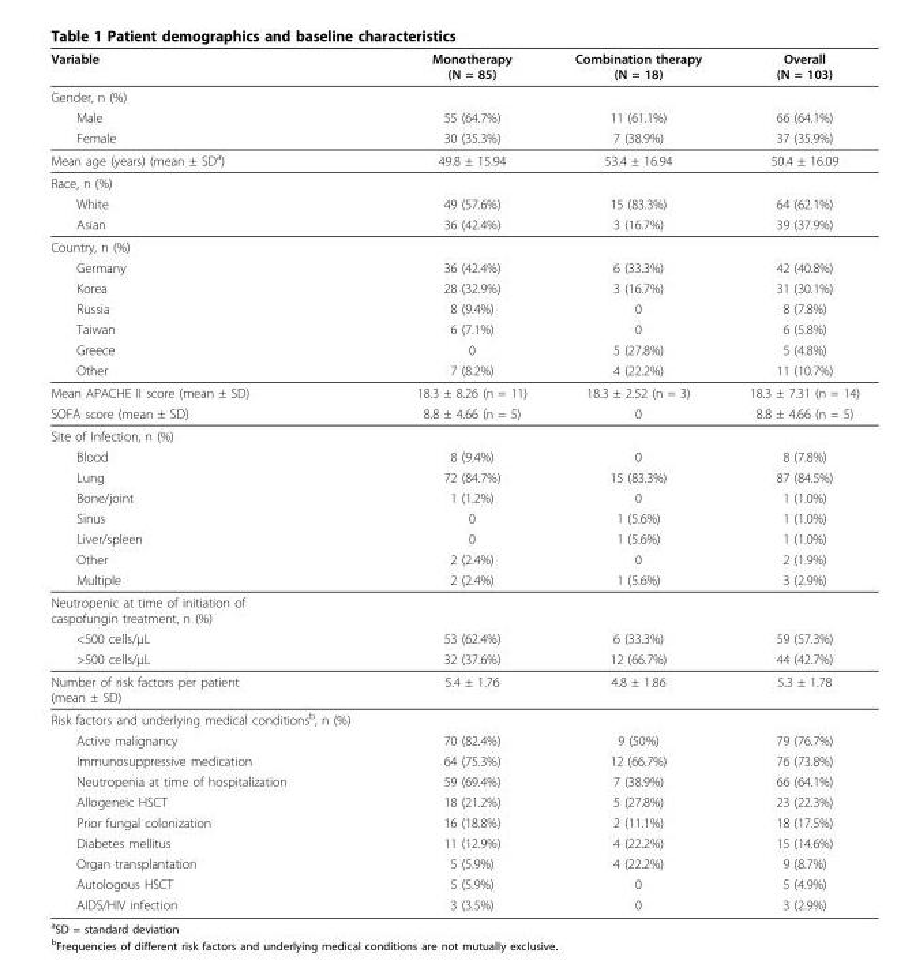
<table><thead><tr><td>Variable</td><td>Monotherapy (N = 85)</td><td>Combination therapy (N = 18)</td><td>Overall (N = 103)</td></tr></thead><tbody><tr><td colspan="4">Gender, n (%)</td></tr><tr><td>Male</td><td>55 (64.7%)</td><td>11 (61.1%)</td><td>66 (64.1%)</td></tr><tr><td>Female</td><td>30 (35.3%)</td><td>7 (38.9%)</td><td>37 (35.9%)</td></tr><tr><td>Mean age (years) (mean ± SD<sup>a</sup>)</td><td>49.8 ± 15.94</td><td>53.4 ± 16.94</td><td>50.4 ± 16.09</td></tr><tr><td colspan="4">Race, n (%)</td></tr><tr><td>White</td><td>49 (57.6%)</td><td>15 (83.3%)</td><td>64 (62.1%)</td></tr><tr><td>Asian</td><td>36 (42.4%)</td><td>3 (16.7%)</td><td>39 (37.9%)</td></tr><tr><td colspan="4">Country, n (%)</td></tr><tr><td>Germany</td><td>36 (42.4%)</td><td>6 (33.3%)</td><td>42 (40.8%)</td></tr><tr><td>Korea</td><td>28 (32.9%)</td><td>3 (16.7%)</td><td>31 (30.1%)</td></tr><tr><td>Russia</td><td>8 (9.4%)</td><td>0</td><td>8 (7.8%)</td></tr><tr><td>Taiwan</td><td>6 (7.1%)</td><td>0</td><td>6 (5.8%)</td></tr><tr><td>Greece</td><td>0</td><td>5 (27.8%)</td><td>5 (4.8%)</td></tr><tr><td>Other</td><td>7 (8.2%)</td><td>4 (22.2%)</td><td>11 (10.7%)</td></tr><tr><td>Mean APACHE II score (mean ± SD)</td><td>18.3 ± 8.26 (n = 11)</td><td>18.3 ± 2.52 (n = 3)</td><td>18.3 ± 7.31 (n = 14)</td></tr><tr><td>SOFA score (mean ± SD)</td><td>8.8 ± 4.66 (n = 5)</td><td>0</td><td>8.8 ± 4.66 (n = 5)</td></tr><tr><td colspan="4">Site of Infection, n (%)</td></tr><tr><td>Blood</td><td>8 (9.4%)</td><td>0</td><td>8 (7.8%)</td></tr><tr><td>Lung</td><td>72 (84.7%)</td><td>15 (83.3%)</td><td>87 (84.5%)</td></tr><tr><td>Bone/joint</td><td>1 (1.2%)</td><td>0</td><td>1 (1.0%)</td></tr><tr><td>Sinus</td><td>0</td><td>1 (5.6%)</td><td>1 (1.0%)</td></tr><tr><td>Liver/spleen</td><td>0</td><td>1 (5.6%)</td><td>1 (1.0%)</td></tr><tr><td>Other</td><td>2 (2.4%)</td><td>0</td><td>2 (1.9%)</td></tr><tr><td>Multiple</td><td>2 (2.4%)</td><td>1 (5.6%)</td><td>3 (2.9%)</td></tr><tr><td colspan="4">Neutropenic at time of initiation of caspofungin treatment, n (%)</td></tr><tr><td>&lt;500 cells/μL</td><td>53 (62.4%)</td><td>6 (33.3%)</td><td>59 (57.3%)</td></tr><tr><td>&gt;500 cells/μL</td><td>32 (37.6%)</td><td>12 (66.7%)</td><td>44 (42.7%)</td></tr><tr><td>Number of risk factors per patient (mean ± SD)</td><td>5.4 ± 1.76</td><td>4.8 ± 1.86</td><td>5.3 ± 1.78</td></tr><tr><td colspan="4">Risk factors and underlying medical conditions<sup>b</sup>, n (%)</td></tr><tr><td>Active malignancy</td><td>70 (82.4%)</td><td>9 (50%)</td><td>79 (76.7%)</td></tr><tr><td>Immunosuppressive medication</td><td>64 (75.3%)</td><td>12 (66.7%)</td><td>76 (73.8%)</td></tr><tr><td>Neutropenia at time of hospitalization</td><td>59 (69.4%)</td><td>7 (38.9%)</td><td>66 (64.1%)</td></tr><tr><td>Allogeneic HSCT</td><td>18 (21.2%)</td><td>5 (27.8%)</td><td>23 (22.3%)</td></tr><tr><td>Prior fungal colonization</td><td>16 (18.8%)</td><td>2 (11.1%)</td><td>18 (17.5%)</td></tr><tr><td>Diabetes mellitus</td><td>11 (12.9%)</td><td>4 (22.2%)</td><td>15 (14.6%)</td></tr><tr><td>Organ transplantation</td><td>5 (5.9%)</td><td>4 (22.2%)</td><td>9 (8.7%)</td></tr><tr><td>Autologous HSCT</td><td>5 (5.9%)</td><td>0</td><td>5 (4.9%)</td></tr><tr><td>AIDS/HIV infection</td><td>3 (3.5%)</td><td>0</td><td>3 (2.9%)</td></tr></tbody></table>